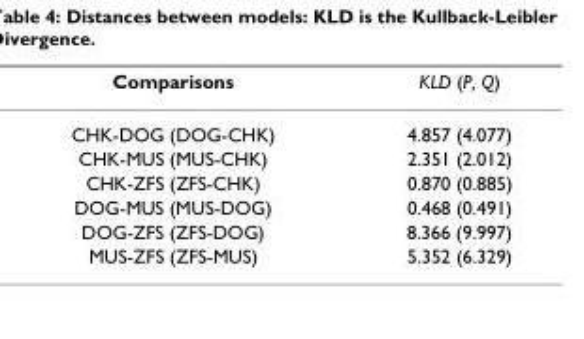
<table><thead><tr><td>Comparisons</td><td>KLD (P, Q)</td></tr></thead><tbody><tr><td>CHK-DOG (DOG-CHK)</td><td>4.857 (4.077)</td></tr><tr><td>CHK-MUS (MUS-CHK)</td><td>2.351 (2.012)</td></tr><tr><td>CHK-ZFS (ZFS-CHK)</td><td>0.870 (0.885)</td></tr><tr><td>DOG-MUS (MUS-DOG)</td><td>0.468 (0.491)</td></tr><tr><td>DOG-ZFS (ZFS-DOG)</td><td>8.366 (9.997)</td></tr><tr><td>MUS-ZFS (ZFS-MUS)</td><td>5.352 (6.329)</td></tr></tbody></table>